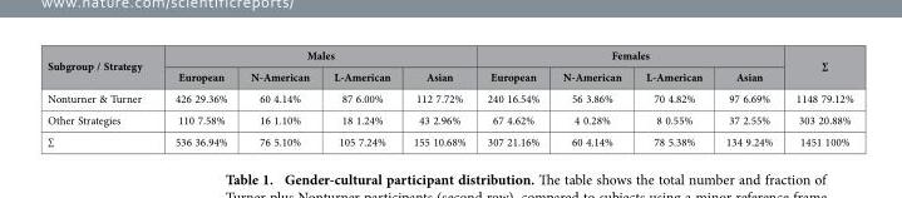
<table><thead><tr><td rowspan="2">Subgroup / Strategy</td><td colspan="4">Males</td><td colspan="4">Females</td><td rowspan="2">∑</td></tr><tr><td>European</td><td>N-American</td><td>L-American</td><td>Asian</td><td>European</td><td>N-American</td><td>L-American</td><td>Asian</td></tr></thead><tbody><tr><td>Nonturner &amp; Turner</td><td>426 29.36%</td><td>60 4.14%</td><td>87 6.00%</td><td>112 7.72%</td><td>240 16.54%</td><td>56 3.86%</td><td>70 4.82%</td><td>97 6.69%</td><td>1148 79.12%</td></tr><tr><td>Other Strategies</td><td>110 7.58%</td><td>16 1.10%</td><td>18 1.24%</td><td>43 2.96%</td><td>67 4.62%</td><td>4 0.28%</td><td>8 0.55%</td><td>37 2.55%</td><td>303 20.88%</td></tr><tr><td>∑</td><td>536 36.94%</td><td>76 5.10%</td><td>105 7.24%</td><td>155 10.68%</td><td>307 21.16%</td><td>60 4.14%</td><td>78 5.38%</td><td>134 9.24%</td><td>1451 100%</td></tr></tbody></table>